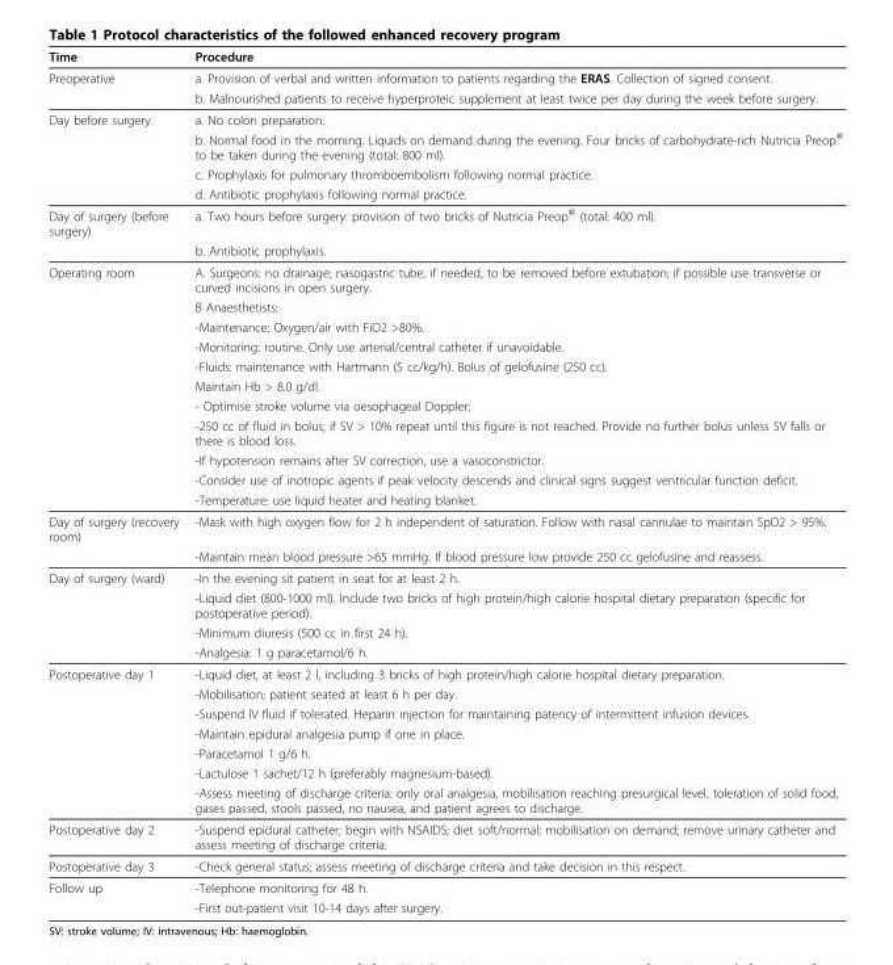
<table><thead><tr><td>Time</td><td>Procedure</td></tr></thead><tbody><tr><td rowspan="2">Preoperative</td><td>a. Provision of verbal and written information to patients regarding the ERAS. Collection of signed consent.</td></tr><tr><td>b. Malnourished patients to receive hyperproteic supplement at least twice per day during the week before surgery.</td></tr><tr><td rowspan="4">Day before surgery</td><td>a. No colon preparation.</td></tr><tr><td>b. Normal food in the morning. Liquids on demand during the evening. Four bricks of carbohydrate-rich Nutricia Preop<sup>®</sup> to be taken during the evening (total: 800 ml).</td></tr><tr><td>c. Prophylaxis for pulmonary thromboembolism following normal practice.</td></tr><tr><td>d. Antibiotic prophylaxis following normal practice.</td></tr><tr><td rowspan="2">Day of surgery (before surgery)</td><td>a. Two hours before surgery: provision of two bricks of Nutricia Preop<sup>®</sup> (total: 400 ml).</td></tr><tr><td>b. Antibiotic prophylaxis.</td></tr><tr><td rowspan="11">Operating room</td><td>A. Surgeons: no drainage; nasogastric tube, if needed, to be removed before extubation; if possible use transverse or curved incisions in open surgery.</td></tr><tr><td>B Anaesthetists:</td></tr><tr><td>-Maintenance: Oxygen/air with FiO2 &gt;80%.</td></tr><tr><td>-Monitoring: routine. Only use arterial/central catheter if unavoidable.</td></tr><tr><td>-Fluids: maintenance with Hartmann (5 cc/kg/h). Bolus of gelofusine (250 cc).</td></tr><tr><td>Maintain Hb &gt; 8.0 g/dl.</td></tr><tr><td>- Optimise stroke volume via oesophageal Doppler:</td></tr><tr><td>-250 cc of fluid in bolus; if SV &gt; 10% repeat until this figure is not reached. Provide no further bolus unless SV falls or there is blood loss.</td></tr><tr><td>-If hypotension remains after SV correction, use a vasoconstrictor.</td></tr><tr><td>-Consider use of inotropic agents if peak velocity descends and clinical signs suggest ventricular function deficit.</td></tr><tr><td>-Temperature: use liquid heater and heating blanket.</td></tr><tr><td rowspan="2">Day of surgery (recovery room)</td><td>-Mask with high oxygen flow for 2 h independent of saturation. Follow with nasal cannulae to maintain SpO2 &gt; 95%.</td></tr><tr><td>-Maintain mean blood pressure &gt;65 mmHg. If blood pressure low provide 250 cc gelofusine and reassess.</td></tr><tr><td rowspan="4">Day of surgery (ward)</td><td>-In the evening sit patient in seat for at least 2 h.</td></tr><tr><td>-Liquid diet (800-1000 ml). Include two bricks of high protein/high calorie hospital dietary preparation (specific for postoperative period).</td></tr><tr><td>-Minimum diuresis (500 cc in first 24 h).</td></tr><tr><td>-Analgesia: 1 g paracetamol/6 h.</td></tr><tr><td rowspan="7">Postoperative day 1</td><td>-Liquid diet, at least 2 l, including 3 bricks of high protein/high calorie hospital dietary preparation.</td></tr><tr><td>-Mobilisation; patient seated at least 6 h per day.</td></tr><tr><td>-Suspend IV fluid if tolerated. Heparin injection for maintaining patency of intermittent infusion devices.</td></tr><tr><td>-Maintain epidural analgesia pump if one in place.</td></tr><tr><td>-Paracetamol 1 g/6 h.</td></tr><tr><td>-Lactulose 1 sachet/12 h (preferably magnesium-based).</td></tr><tr><td>-Assess meeting of discharge criteria: only oral analgesia, mobilisation reaching presurgical level, toleration of solid food, gases passed, stools passed, no nausea, and patient agrees to discharge.</td></tr><tr><td>Postoperative day 2</td><td>-Suspend epidural catheter; begin with NSAIDS; diet soft/normal; mobilisation on demand; remove urinary catheter and assess meeting of discharge criteria.</td></tr><tr><td>Postoperative day 3</td><td>-Check general status; assess meeting of discharge criteria and take decision in this respect.</td></tr><tr><td rowspan="2">Follow up</td><td>-Telephone monitoring for 48 h.</td></tr><tr><td>-First out-patient visit 10-14 days after surgery.</td></tr></tbody></table>